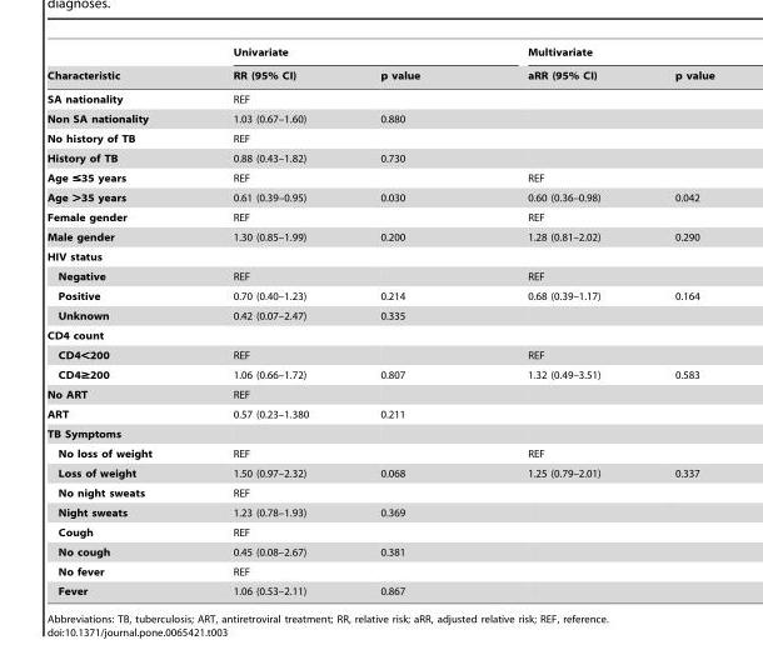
<table><thead><tr><td rowspan="2">Characteristic</td><td colspan="2">Univariate</td><td colspan="2">Multivariate</td></tr><tr><td>RR (95% CI)</td><td>p value</td><td>aRR (95% CI)</td><td>p value</td></tr></thead><tbody><tr><td>SA nationality</td><td>REF</td><td></td><td></td><td></td></tr><tr><td>Non SA nationality</td><td>1.03 (0.67–1.60)</td><td>0.880</td><td></td><td></td></tr><tr><td>No history of TB</td><td>REF</td><td></td><td></td><td></td></tr><tr><td>History of TB</td><td>0.88 (0.43–1.82)</td><td>0.730</td><td></td><td></td></tr><tr><td>Age ≤35 years</td><td>REF</td><td></td><td>REF</td><td></td></tr><tr><td>Age &gt;35 years</td><td>0.61 (0.39–0.95)</td><td>0.030</td><td>0.60 (0.36–0.98)</td><td>0.042</td></tr><tr><td>Female gender</td><td>REF</td><td></td><td>REF</td><td></td></tr><tr><td>Male gender</td><td>1.30 (0.85–1.99)</td><td>0.200</td><td>1.28 (0.81–2.02)</td><td>0.290</td></tr><tr><td colspan="5">HIV status</td></tr><tr><td>Negative</td><td>REF</td><td></td><td>REF</td><td></td></tr><tr><td>Positive</td><td>0.70 (0.40–1.23)</td><td>0.214</td><td>0.68 (0.39–1.17)</td><td>0.164</td></tr><tr><td>Unknown</td><td>0.42 (0.07–2.47)</td><td>0.335</td><td></td><td></td></tr><tr><td colspan="5">CD4 count</td></tr><tr><td>CD4&lt;200</td><td>REF</td><td></td><td>REF</td><td></td></tr><tr><td>CD4≥200</td><td>1.06 (0.66–1.72)</td><td>0.807</td><td>1.32 (0.49–3.51)</td><td>0.583</td></tr><tr><td>No ART</td><td>REF</td><td></td><td></td><td></td></tr><tr><td>ART</td><td>0.57 (0.23–1.380</td><td>0.211</td><td></td><td></td></tr><tr><td colspan="5">TB Symptoms</td></tr><tr><td>No loss of weight</td><td>REF</td><td></td><td>REF</td><td></td></tr><tr><td>Loss of weight</td><td>1.50 (0.97–2.32)</td><td>0.068</td><td>1.25 (0.79–2.01)</td><td>0.337</td></tr><tr><td>No night sweats</td><td>REF</td><td></td><td></td><td></td></tr><tr><td>Night sweats</td><td>1.23 (0.78–1.93)</td><td>0.369</td><td></td><td></td></tr><tr><td>Cough</td><td>REF</td><td></td><td></td><td></td></tr><tr><td>No cough</td><td>0.45 (0.08–2.67)</td><td>0.381</td><td></td><td></td></tr><tr><td>No fever</td><td>REF</td><td></td><td></td><td></td></tr><tr><td>Fever</td><td>1.06 (0.53–2.11)</td><td>0.867</td><td></td><td></td></tr></tbody></table>